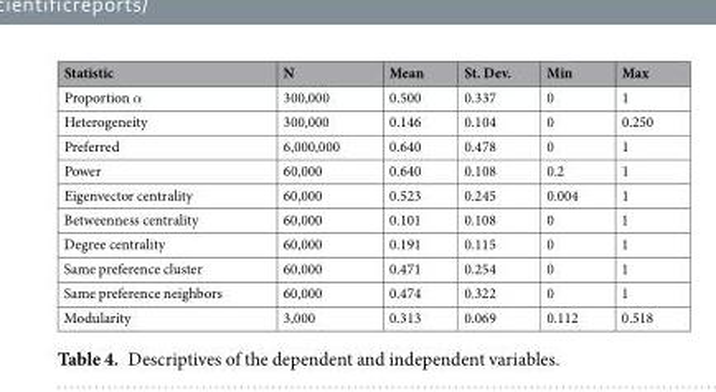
<table><thead><tr><td>Statistic</td><td>N</td><td>Mean</td><td>St. Dev.</td><td>Min</td><td>Max</td></tr></thead><tbody><tr><td>Proportion α</td><td>300,000</td><td>0.500</td><td>0.337</td><td>0</td><td>1</td></tr><tr><td>Heterogeneity</td><td>300,000</td><td>0.146</td><td>0.104</td><td>0</td><td>0.250</td></tr><tr><td>Preferred</td><td>6,000,000</td><td>0.640</td><td>0.478</td><td>0</td><td>1</td></tr><tr><td>Power</td><td>60,000</td><td>0.640</td><td>0.108</td><td>0.2</td><td>1</td></tr><tr><td>Eigenvector centrality</td><td>60,000</td><td>0.523</td><td>0.245</td><td>0.004</td><td>1</td></tr><tr><td>Betweenness centrality</td><td>60,000</td><td>0.101</td><td>0.108</td><td>0</td><td>1</td></tr><tr><td>Degree centrality</td><td>60,000</td><td>0.191</td><td>0.115</td><td>0</td><td>1</td></tr><tr><td>Same preference cluster</td><td>60,000</td><td>0.471</td><td>0.254</td><td>0</td><td>1</td></tr><tr><td>Same preference neighbors</td><td>60,000</td><td>0.474</td><td>0.322</td><td>0</td><td>1</td></tr><tr><td>Modularity</td><td>3,000</td><td>0.313</td><td>0.069</td><td>0.112</td><td>0.518</td></tr></tbody></table>